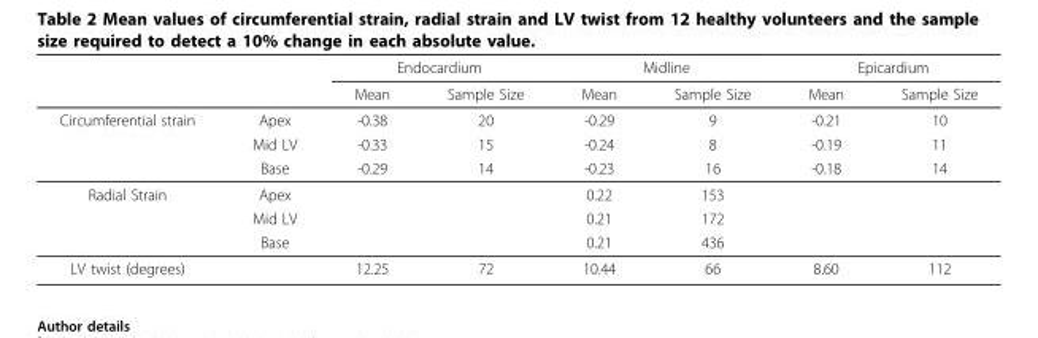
<table><thead><tr><td rowspan="2"></td><td rowspan="2"></td><td colspan="2">Endocardium</td><td colspan="2">Midline</td><td colspan="2">Epicardium</td></tr><tr><td>Mean</td><td>Sample Size</td><td>Mean</td><td>Sample Size</td><td>Mean</td><td>Sample Size</td></tr></thead><tbody><tr><td rowspan="3">Circumferential strain</td><td>Apex</td><td>-0.38</td><td>20</td><td>-0.29</td><td>9</td><td>-0.21</td><td>10</td></tr><tr><td>Mid LV</td><td>-0.33</td><td>15</td><td>-0.24</td><td>8</td><td>-0.19</td><td>11</td></tr><tr><td>Base</td><td>-0.29</td><td>14</td><td>-0.23</td><td>16</td><td>-0.18</td><td>14</td></tr><tr><td rowspan="3">Radial Strain</td><td>Apex</td><td></td><td></td><td>0.22</td><td>153</td><td></td><td></td></tr><tr><td>Mid LV</td><td></td><td></td><td>0.21</td><td>172</td><td></td><td></td></tr><tr><td>Base</td><td></td><td></td><td>0.21</td><td>436</td><td></td><td></td></tr><tr><td>LV twist (degrees)</td><td></td><td>12.25</td><td>72</td><td>10.44</td><td>66</td><td>8.60</td><td>112</td></tr></tbody></table>